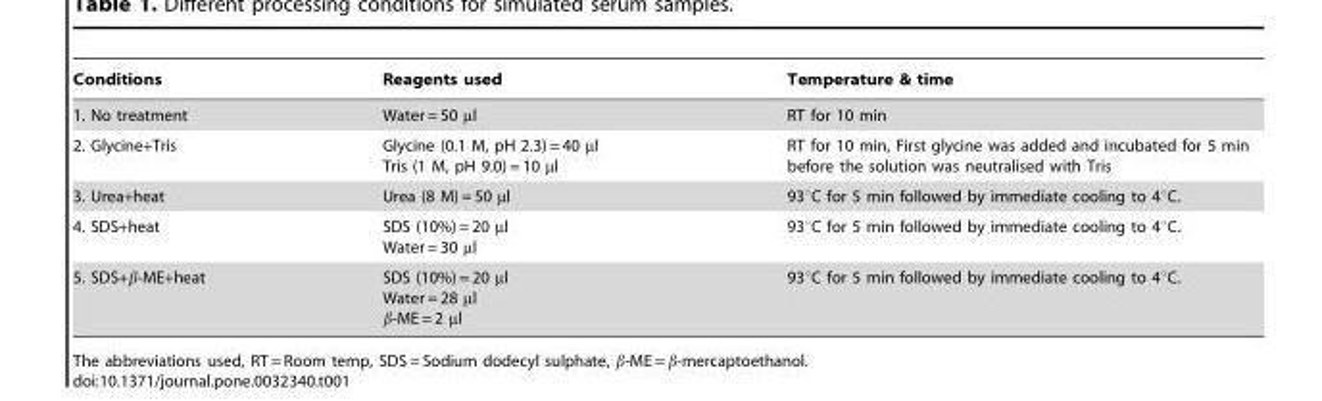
<table><thead><tr><td>Conditions</td><td>Reagents used</td><td>Temperature &amp; time</td></tr></thead><tbody><tr><td>1. No treatment</td><td>Water = 50 µl</td><td>RT for 10 min</td></tr><tr><td>2. Glycine+Tris</td><td>Glycine (0.1 M, pH 2.3) = 40 µl Tris (1 M, pH 9.0) = 10 µl</td><td>RT for 10 min, First glycine was added and incubated for 5 min before the solution was neutralised with Tris</td></tr><tr><td>3. Urea+heat</td><td>Urea (8 M) = 50 µl</td><td>93°C for 5 min followed by immediate cooling to 4°C.</td></tr><tr><td>4. SDS+heat</td><td>SDS (10%) = 20 µl Water = 30 µl</td><td>93°C for 5 min followed by immediate cooling to 4°C.</td></tr><tr><td>5. SDS+β-ME+heat</td><td>SDS (10%) = 20 µl Water = 28 µl β-ME = 2 µl</td><td>93°C for 5 min followed by immediate cooling to 4°C.</td></tr></tbody></table>